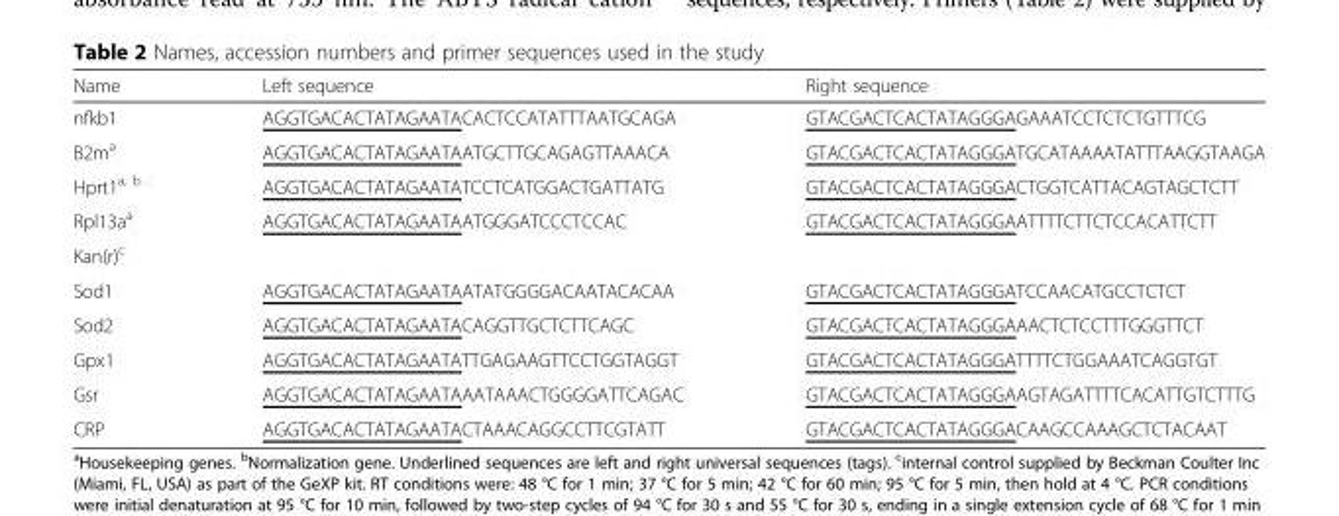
<table><thead><tr><td>Name</td><td>Left sequence</td><td>Right sequence</td></tr></thead><tbody><tr><td>nfkb1</td><td>AGGTGACACTATAGAATACACTCCATATTTAATGCAGA</td><td>GTACGACTCACTATAGGGAGAAATCCTCTCTGTTTCG</td></tr><tr><td>B2m<sup>a</sup></td><td>AGGTGACACTATAGAATAATGCTTGCAGAGTTAAACA</td><td>GTACGACTCACTATAGGGATGCATAAAATATTTAAGGTAAGA</td></tr><tr><td>Hprt1<sup>a, b</sup></td><td>AGGTGACACTATAGAATATCCTCATGGACTGATTATG</td><td>GTACGACTCACTATAGGGACTGGTCATTACAGTAGCTCTT</td></tr><tr><td>Rpl13a<sup>a</sup></td><td>AGGTGACACTATAGAATAATGGGATCCCTCCAC</td><td>GTACGACTCACTATAGGGAATTTTCTTCTCCACATTCTT</td></tr><tr><td colspan="3">Kan(r)<sup>c</sup></td></tr><tr><td>Sod1</td><td>AGGTGACACTATAGAATAATATGGGGACAATACACAA</td><td>GTACGACTCACTATAGGGATCCAACATGCCTCTCT</td></tr><tr><td>Sod2</td><td>AGGTGACACTATAGAATACAGGTTGCTCTTCAGC</td><td>GTACGACTCACTATAGGGAAACTCTCCTTTGGGTTCT</td></tr><tr><td>Gpx1</td><td>AGGTGACACTATAGAATATTGAGAAGTTCCTGGTAGGT</td><td>GTACGACTCACTATAGGGATTTTCTGGAAATCAGGTGT</td></tr><tr><td>Gsr</td><td>AGGTGACACTATAGAATAAATAAACTGGGGATTCAGAC</td><td>GTACGACTCACTATAGGGAAGTAGATTTTCACATTGTCTTTG</td></tr><tr><td>CRP</td><td>AGGTGACACTATAGAATACTAAACAGGCCTTCGTATT</td><td>GTACGACTCACTATAGGGACAAGCCAAAGCTCTACAAT</td></tr></tbody></table>